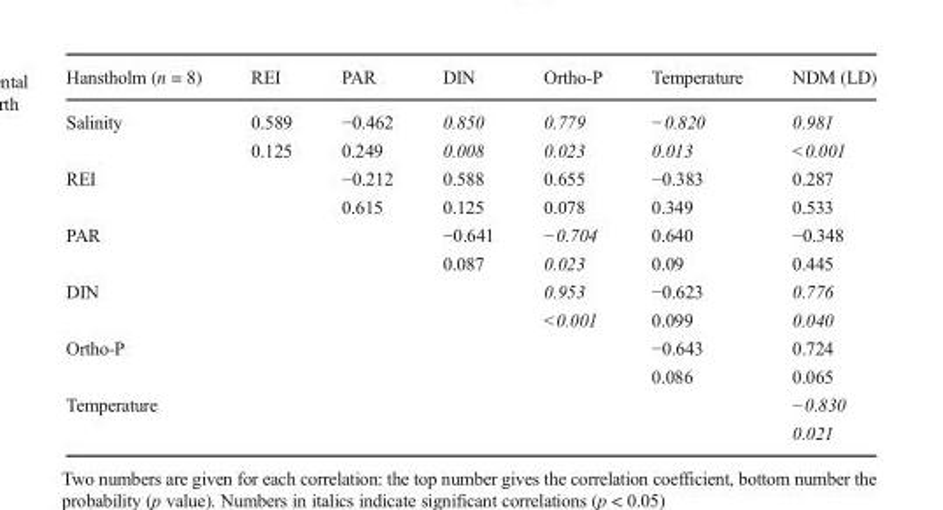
<table><thead><tr><td>Hanstholm (n = 8)</td><td>REI</td><td>PAR</td><td>DIN</td><td>Ortho-P</td><td>Temperature</td><td>NDM (LD)</td></tr></thead><tbody><tr><td>Salinity</td><td>0.589 0.125</td><td>−0.462 0.249</td><td>0.850 0.008</td><td>0.779 0.023</td><td>−0.820 0.013</td><td>0.981 &lt;0.001</td></tr><tr><td>REI</td><td></td><td>−0.212 0.615</td><td>0.588 0.125</td><td>0.655 0.078</td><td>−0.383 0.349</td><td>0.287 0.533</td></tr><tr><td>PAR</td><td></td><td></td><td>−0.641 0.087</td><td>−0.704 0.023</td><td>0.640 0.09</td><td>−0.348 0.445</td></tr><tr><td>DIN</td><td></td><td></td><td></td><td>0.953 &lt;0.001</td><td>−0.623 0.099</td><td>0.776 0.040</td></tr><tr><td>Ortho-P</td><td></td><td></td><td></td><td></td><td>−0.643 0.086</td><td>0.724 0.065</td></tr><tr><td>Temperature</td><td></td><td></td><td></td><td></td><td></td><td>−0.830 0.021</td></tr></tbody></table>